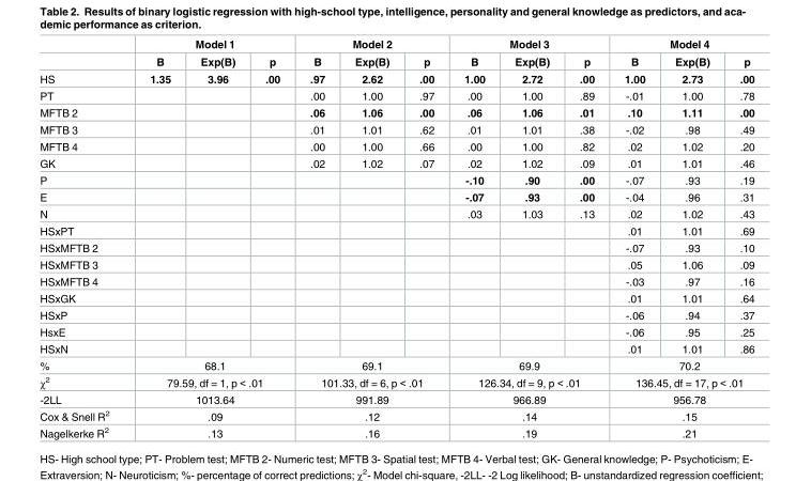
<table><thead><tr><td rowspan="2"></td><td colspan="3">Model 1</td><td colspan="3">Model 2</td><td colspan="3">Model 3</td><td colspan="3">Model 4</td></tr><tr><td>B</td><td>Exp(B)</td><td>p</td><td>B</td><td>Exp(B)</td><td>p</td><td>B</td><td>Exp(B)</td><td>p</td><td>B</td><td>Exp(B)</td><td>p</td></tr></thead><tbody><tr><td>HS</td><td>1.35</td><td>3.96</td><td>.00</td><td>.97</td><td>2.62</td><td>.00</td><td>1.00</td><td>2.72</td><td>.00</td><td>1.00</td><td>2.73</td><td>.00</td></tr><tr><td>PT</td><td></td><td></td><td></td><td>.00</td><td>1.00</td><td>.97</td><td>.00</td><td>1.00</td><td>.89</td><td>-.01</td><td>1.00</td><td>.78</td></tr><tr><td>MFTB 2</td><td></td><td></td><td></td><td>.06</td><td>1.06</td><td>.00</td><td>.06</td><td>1.06</td><td>.01</td><td>.10</td><td>1.11</td><td>.00</td></tr><tr><td>MFTB 3</td><td></td><td></td><td></td><td>.01</td><td>1.01</td><td>.62</td><td>.01</td><td>1.01</td><td>.38</td><td>-.02</td><td>.98</td><td>.49</td></tr><tr><td>MFTB 4</td><td></td><td></td><td></td><td>.00</td><td>1.00</td><td>.66</td><td>.00</td><td>1.00</td><td>.82</td><td>.02</td><td>1.02</td><td>.20</td></tr><tr><td>GK</td><td></td><td></td><td></td><td>.02</td><td>1.02</td><td>.07</td><td>.02</td><td>1.02</td><td>.09</td><td>.01</td><td>1.01</td><td>.46</td></tr><tr><td>P</td><td></td><td></td><td></td><td></td><td></td><td></td><td>-.10</td><td>.90</td><td>.00</td><td>-.07</td><td>.93</td><td>.19</td></tr><tr><td>E</td><td></td><td></td><td></td><td></td><td></td><td></td><td>-.07</td><td>.93</td><td>.00</td><td>-.04</td><td>.96</td><td>.31</td></tr><tr><td>N</td><td></td><td></td><td></td><td></td><td></td><td></td><td>.03</td><td>1.03</td><td>.13</td><td>.02</td><td>1.02</td><td>.43</td></tr><tr><td>HSxPT</td><td></td><td></td><td></td><td></td><td></td><td></td><td></td><td></td><td></td><td>.01</td><td>1.01</td><td>.69</td></tr><tr><td>HSxMFTB 2</td><td></td><td></td><td></td><td></td><td></td><td></td><td></td><td></td><td></td><td>-.07</td><td>.93</td><td>.10</td></tr><tr><td>HSxMFTB 3</td><td></td><td></td><td></td><td></td><td></td><td></td><td></td><td></td><td></td><td>.05</td><td>1.06</td><td>.09</td></tr><tr><td>HSxMFTB 4</td><td></td><td></td><td></td><td></td><td></td><td></td><td></td><td></td><td></td><td>-.03</td><td>.97</td><td>.16</td></tr><tr><td>HSxGK</td><td></td><td></td><td></td><td></td><td></td><td></td><td></td><td></td><td></td><td>.01</td><td>1.01</td><td>.64</td></tr><tr><td>HSxP</td><td></td><td></td><td></td><td></td><td></td><td></td><td></td><td></td><td></td><td>-.06</td><td>.94</td><td>.37</td></tr><tr><td>HsxE</td><td></td><td></td><td></td><td></td><td></td><td></td><td></td><td></td><td></td><td>-.06</td><td>.95</td><td>.25</td></tr><tr><td>HSxN</td><td></td><td></td><td></td><td></td><td></td><td></td><td></td><td></td><td></td><td>.01</td><td>1.01</td><td>.86</td></tr><tr><td>%</td><td colspan="3">68.1</td><td colspan="3">69.1</td><td colspan="3">69.9</td><td colspan="3">70.2</td></tr><tr><td>χ<sup>2</sup></td><td colspan="3">79.59, df = 1, p &lt; .01</td><td colspan="3">101.33, df = 6, p &lt; .01</td><td colspan="3">126.34, df = 9, p &lt; .01</td><td colspan="3">136.45, df = 17, p &lt; .01</td></tr><tr><td>-2LL</td><td colspan="3">1013.64</td><td colspan="3">991.89</td><td colspan="3">966.89</td><td colspan="3">956.78</td></tr><tr><td>Cox &amp; Snell R<sup>2</sup></td><td colspan="3">.09</td><td colspan="3">.12</td><td colspan="3">.14</td><td colspan="3">.15</td></tr><tr><td>Nagelkerke R<sup>2</sup></td><td colspan="3">.13</td><td colspan="3">.16</td><td colspan="3">.19</td><td colspan="3">.21</td></tr></tbody></table>